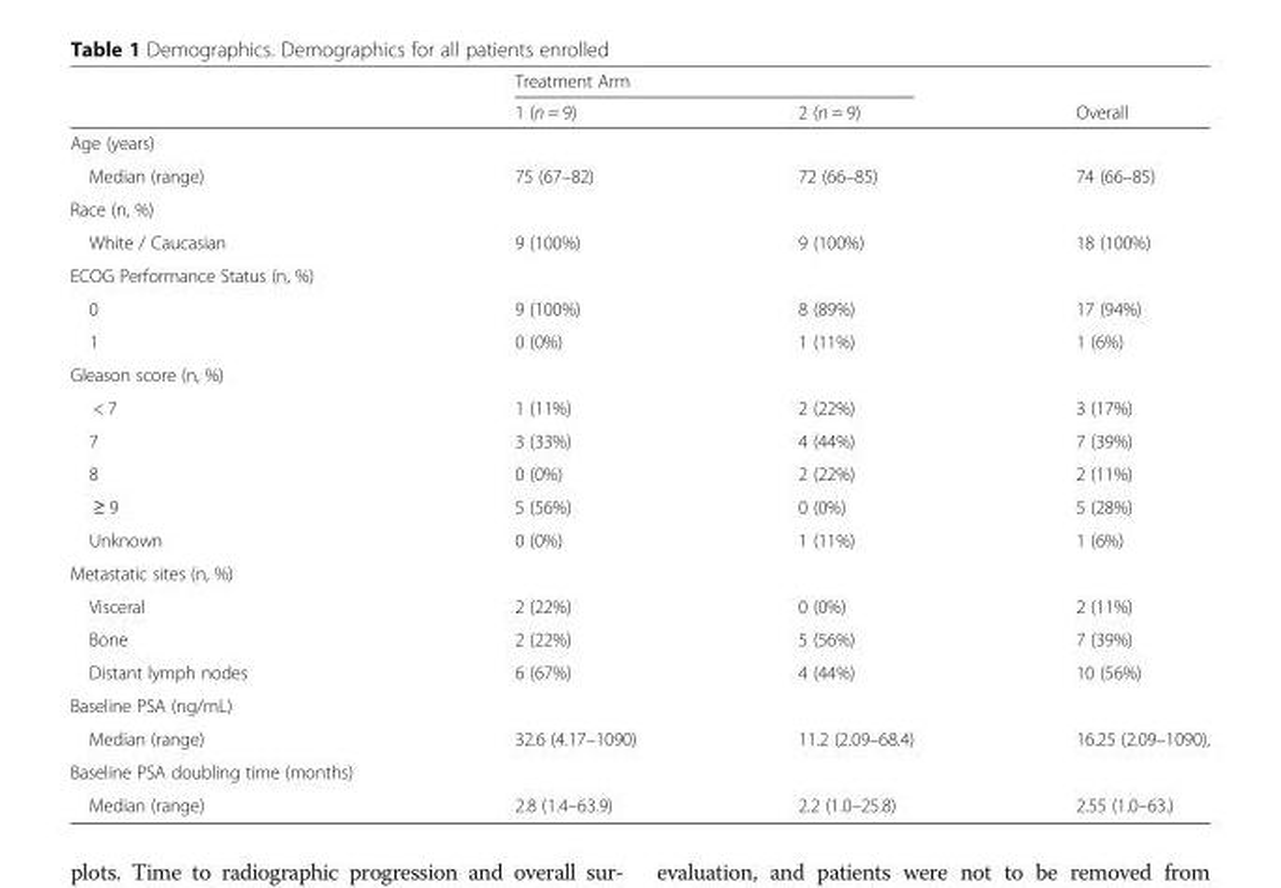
<table><thead><tr><td rowspan="2"></td><td colspan="2">Treatment Arm</td><td rowspan="2">Overall</td></tr><tr><td>1 (n = 9)</td><td>2 (n = 9)</td></tr></thead><tbody><tr><td colspan="4">Age (years)</td></tr><tr><td>Median (range)</td><td>75 (67–82)</td><td>72 (66–85)</td><td>74 (66–85)</td></tr><tr><td colspan="4">Race (n, %)</td></tr><tr><td>White / Caucasian</td><td>9 (100%)</td><td>9 (100%)</td><td>18 (100%)</td></tr><tr><td colspan="4">ECOG Performance Status (n, %)</td></tr><tr><td>0</td><td>9 (100%)</td><td>8 (89%)</td><td>17 (94%)</td></tr><tr><td>1</td><td>0 (0%)</td><td>1 (11%)</td><td>1 (6%)</td></tr><tr><td colspan="4">Gleason score (n, %)</td></tr><tr><td>&lt; 7</td><td>1 (11%)</td><td>2 (22%)</td><td>3 (17%)</td></tr><tr><td>7</td><td>3 (33%)</td><td>4 (44%)</td><td>7 (39%)</td></tr><tr><td>8</td><td>0 (0%)</td><td>2 (22%)</td><td>2 (11%)</td></tr><tr><td>≥ 9</td><td>5 (56%)</td><td>0 (0%)</td><td>5 (28%)</td></tr><tr><td>Unknown</td><td>0 (0%)</td><td>1 (11%)</td><td>1 (6%)</td></tr><tr><td colspan="4">Metastatic sites (n, %)</td></tr><tr><td>Visceral</td><td>2 (22%)</td><td>0 (0%)</td><td>2 (11%)</td></tr><tr><td>Bone</td><td>2 (22%)</td><td>5 (56%)</td><td>7 (39%)</td></tr><tr><td>Distant lymph nodes</td><td>6 (67%)</td><td>4 (44%)</td><td>10 (56%)</td></tr><tr><td colspan="4">Baseline PSA (ng/mL)</td></tr><tr><td>Median (range)</td><td>32.6 (4.17–1090)</td><td>11.2 (2.09–68.4)</td><td>16.25 (2.09–1090),</td></tr><tr><td colspan="4">Baseline PSA doubling time (months)</td></tr><tr><td>Median (range)</td><td>2.8 (1.4–63.9)</td><td>2.2 (1.0–25.8)</td><td>2.55 (1.0–63.)</td></tr></tbody></table>